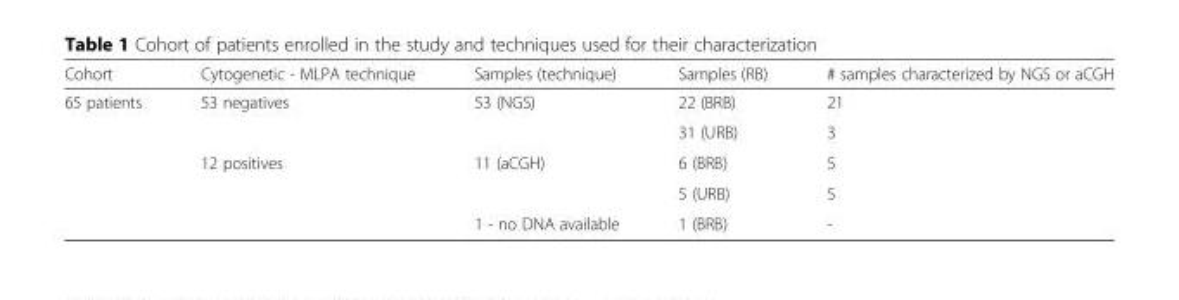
<table><thead><tr><td>Cohort</td><td>Cytogenetic - MLPA technique</td><td>Samples (technique)</td><td>Samples (RB)</td><td># samples characterized by NGS or aCGH</td></tr></thead><tbody><tr><td rowspan="5">65 patients</td><td rowspan="2">53 negatives</td><td rowspan="2">53 (NGS)</td><td>22 (BRB)</td><td>21</td></tr><tr><td>31 (URB)</td><td>3</td></tr><tr><td rowspan="3">12 positives</td><td rowspan="2">11 (aCGH)</td><td>6 (BRB)</td><td>5</td></tr><tr><td>5 (URB)</td><td>5</td></tr><tr><td>1 - no DNA available</td><td>1 (BRB)</td><td>-</td></tr></tbody></table>